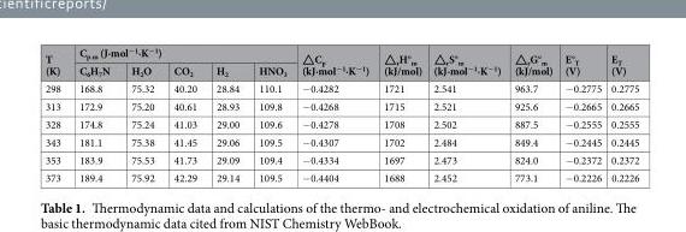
<table><thead><tr><td rowspan="2">T (K)</td><td colspan="5">C<sub>p.m</sub> (J·mol<sup>−1</sup>·K<sup>−1</sup>)</td><td rowspan="2">△C<sub>p</sub> (kJ·mol<sup>−1</sup>·K<sup>−1</sup>)</td><td rowspan="2">△<sub>r</sub>H°<sub>m</sub> (kJ/mol)</td><td rowspan="2">△<sub>r</sub>S°<sub>m</sub> (kJ·mol<sup>−1</sup>·K<sup>−1</sup>)</td><td rowspan="2">△<sub>r</sub>G°<sub>m</sub> (kJ/mol)</td><td rowspan="2">E°<sub>T</sub> (V)</td><td rowspan="2">E<sub>T</sub> (V)</td></tr><tr><td>C<sub>6</sub>H<sub>7</sub>N</td><td>H<sub>2</sub>O</td><td>CO<sub>2</sub></td><td>H<sub>2</sub></td><td>HNO<sub>3</sub></td></tr></thead><tbody><tr><td>298</td><td>168.8</td><td>75.32</td><td>40.20</td><td>28.84</td><td>110.1</td><td>−0.4282</td><td>1721</td><td>2.541</td><td>963.7</td><td>−0.2775</td><td>0.2775</td></tr><tr><td>313</td><td>172.9</td><td>75.20</td><td>40.61</td><td>28.93</td><td>109.8</td><td>−0.4268</td><td>1715</td><td>2.521</td><td>925.6</td><td>−0.2665</td><td>0.2665</td></tr><tr><td>328</td><td>174.8</td><td>75.24</td><td>41.03</td><td>29.00</td><td>109.6</td><td>−0.4278</td><td>1708</td><td>2.502</td><td>887.5</td><td>−0.2555</td><td>0.2555</td></tr><tr><td>343</td><td>181.1</td><td>75.38</td><td>41.45</td><td>29.06</td><td>109.5</td><td>−0.4307</td><td>1702</td><td>2.484</td><td>849.4</td><td>−0.2445</td><td>0.2445</td></tr><tr><td>353</td><td>183.9</td><td>75.53</td><td>41.73</td><td>29.09</td><td>109.4</td><td>−0.4334</td><td>1697</td><td>2.473</td><td>824.0</td><td>−0.2372</td><td>0.2372</td></tr><tr><td>373</td><td>189.4</td><td>75.92</td><td>42.29</td><td>29.14</td><td>109.5</td><td>−0.4404</td><td>1688</td><td>2.452</td><td>773.1</td><td>−0.2226</td><td>0.2226</td></tr></tbody></table>